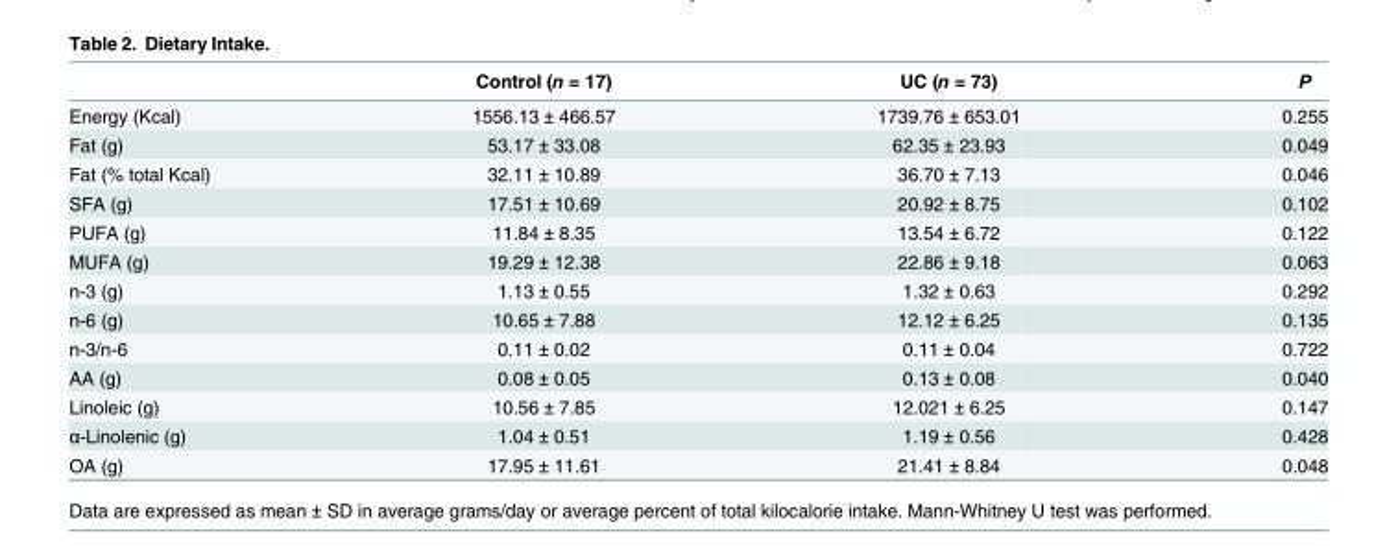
<table><thead><tr><td></td><td>Control (n = 17)</td><td>UC (n = 73)</td><td>P</td></tr></thead><tbody><tr><td>Energy (Kcal)</td><td>1556.13 ± 466.57</td><td>1739.76 ± 653.01</td><td>0.255</td></tr><tr><td>Fat (g)</td><td>53.17 ± 33.08</td><td>62.35 ± 23.93</td><td>0.049</td></tr><tr><td>Fat (% total Kcal)</td><td>32.11 ± 10.89</td><td>36.70 ± 7.13</td><td>0.046</td></tr><tr><td>SFA (g)</td><td>17.51 ± 10.69</td><td>20.92 ± 8.75</td><td>0.102</td></tr><tr><td>PUFA (g)</td><td>11.84 ± 8.35</td><td>13.54 ± 6.72</td><td>0.122</td></tr><tr><td>MUFA (g)</td><td>19.29 ± 12.38</td><td>22.86 ± 9.18</td><td>0.063</td></tr><tr><td>n-3 (g)</td><td>1.13 ± 0.55</td><td>1.32 ± 0.63</td><td>0.292</td></tr><tr><td>n-6 (g)</td><td>10.65 ± 7.88</td><td>12.12 ± 6.25</td><td>0.135</td></tr><tr><td>n-3/n-6</td><td>0.11 ± 0.02</td><td>0.11 ± 0.04</td><td>0.722</td></tr><tr><td>AA (g)</td><td>0.08 ± 0.05</td><td>0.13 ± 0.08</td><td>0.040</td></tr><tr><td>Linoleic (g)</td><td>10.56 ± 7.85</td><td>12.021 ± 6.25</td><td>0.147</td></tr><tr><td>α-Linolenic (g)</td><td>1.04 ± 0.51</td><td>1.19 ± 0.56</td><td>0.428</td></tr><tr><td>OA (g)</td><td>17.95 ± 11.61</td><td>21.41 ± 8.84</td><td>0.048</td></tr></tbody></table>